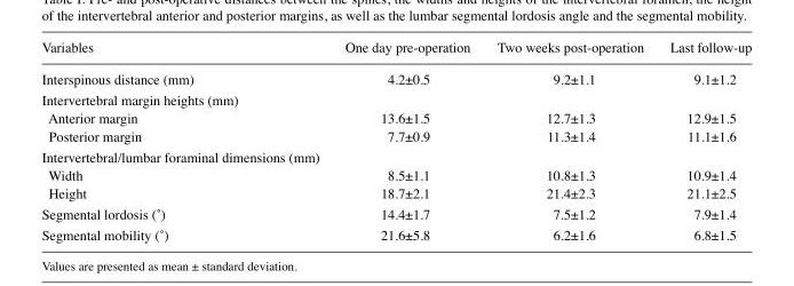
<table><thead><tr><td>Variables</td><td>One day pre-operation</td><td>Two weeks post-operation</td><td>Last follow-up</td></tr></thead><tbody><tr><td>Interspinous distance (mm)</td><td>4.2±0.5</td><td>9.2±1.1</td><td>9.1±1.2</td></tr><tr><td colspan="4">Intervertebral margin heights (mm)</td></tr><tr><td>Anterior margin</td><td>13.6±1.5</td><td>12.7±1.3</td><td>12.9±1.5</td></tr><tr><td>Posterior margin</td><td>7.7±0.9</td><td>11.3±1.4</td><td>11.1±1.6</td></tr><tr><td colspan="4">Intervertebral/lumbar foraminal dimensions (mm)</td></tr><tr><td>Width</td><td>8.5±1.1</td><td>10.8±1.3</td><td>10.9±1.4</td></tr><tr><td>Height</td><td>18.7±2.1</td><td>21.4±2.3</td><td>21.1±2.5</td></tr><tr><td>Segmental lordosis (˚)</td><td>14.4±1.7</td><td>7.5±1.2</td><td>7.9±1.4</td></tr><tr><td>Segmental mobility (˚)</td><td>21.6±5.8</td><td>6.2±1.6</td><td>6.8±1.5</td></tr></tbody></table>